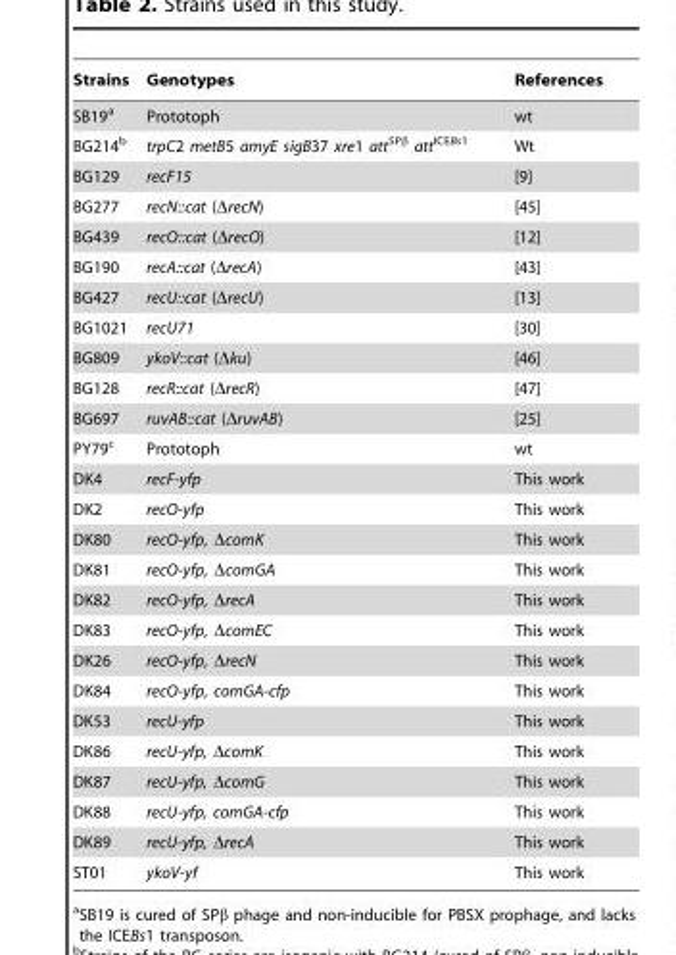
<table><thead><tr><td>Strains</td><td>Genotypes</td><td>References</td></tr></thead><tbody><tr><td>SB19<sup>a</sup></td><td>Prototoph</td><td>wt</td></tr><tr><td>BG214<sup>b</sup></td><td>trpC2 metB5 amyE sigB37 xre1 att<sup>SPβ</sup> att<sup>ICEBs1</sup></td><td>Wt</td></tr><tr><td>BG129</td><td>recF15</td><td>[9]</td></tr><tr><td>BG277</td><td>recN::cat (ΔrecN)</td><td>[45]</td></tr><tr><td>BG439</td><td>recO::cat (ΔrecO)</td><td>[12]</td></tr><tr><td>BG190</td><td>recA::cat (ΔrecA)</td><td>[43]</td></tr><tr><td>BG427</td><td>recU::cat (ΔrecU)</td><td>[13]</td></tr><tr><td>BG1021</td><td>recU71</td><td>[30]</td></tr><tr><td>BG809</td><td>ykoV::cat (Δku)</td><td>[46]</td></tr><tr><td>BG128</td><td>recR::cat (ΔrecR)</td><td>[47]</td></tr><tr><td>BG697</td><td>ruvAB::cat (ΔruvAB)</td><td>[25]</td></tr><tr><td>PY79<sup>c</sup></td><td>Prototoph</td><td>wt</td></tr><tr><td>DK4</td><td>recF-yfp</td><td>This work</td></tr><tr><td>DK2</td><td>recO-yfp</td><td>This work</td></tr><tr><td>DK80</td><td>recO-yfp, ΔcomK</td><td>This work</td></tr><tr><td>DK81</td><td>recO-yfp, ΔcomGA</td><td>This work</td></tr><tr><td>DK82</td><td>recO-yfp, ΔrecA</td><td>This work</td></tr><tr><td>DK83</td><td>recO-yfp, ΔcomEC</td><td>This work</td></tr><tr><td>DK26</td><td>recO-yfp, ΔrecN</td><td>This work</td></tr><tr><td>DK84</td><td>recO-yfp, comGA-cfp</td><td>This work</td></tr><tr><td>DK53</td><td>recU-yfp</td><td>This work</td></tr><tr><td>DK86</td><td>recU-yfp, ΔcomK</td><td>This work</td></tr><tr><td>DK87</td><td>recU-yfp, ΔcomG</td><td>This work</td></tr><tr><td>DK88</td><td>recU-yfp, comGA-cfp</td><td>This work</td></tr><tr><td>DK89</td><td>recU-yfp, ΔrecA</td><td>This work</td></tr><tr><td>ST01</td><td>ykoV-yf</td><td>This work</td></tr></tbody></table>